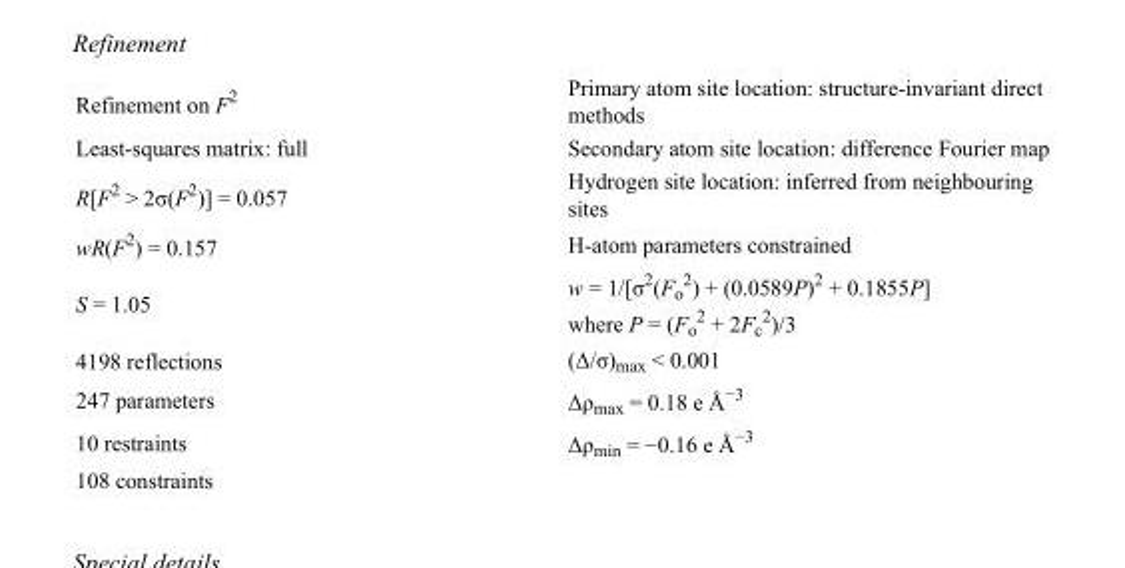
<table><tbody><tr><td>Refinement on F<sup>2</sup></td><td>Primary atom site location: structure-invariant direct methods</td></tr><tr><td>Least-squares matrix: full</td><td>Secondary atom site location: difference Fourier map</td></tr><tr><td>R[F<sup>2</sup> &gt; 2σ(F<sup>2</sup>)] = 0.057</td><td>Hydrogen site location: inferred from neighbouring sites</td></tr><tr><td>wR(F<sup>2</sup>) = 0.157</td><td>H-atom parameters constrained</td></tr><tr><td>S = 1.05</td><td>w = 1/[σ<sup>2</sup>(F<sub>o</sub> <sup>2</sup>) + (0.0589P)<sup>2</sup> + 0.1855P] where P = (F<sub>o</sub> <sup>2</sup> + 2F<sub>c</sub> <sup>2</sup>)/3</td></tr><tr><td>4198 reflections</td><td>(Δ/σ)<sub>max</sub> &lt; 0.001</td></tr><tr><td>247 parameters</td><td>Δρ<sub>max</sub> = 0.18 e Å<sup>−3</sup></td></tr><tr><td>10 restraints</td><td>Δρ<sub>min</sub> = −0.16 e Å<sup>−3</sup></td></tr><tr><td>108 constraints</td><td></td></tr></tbody></table>